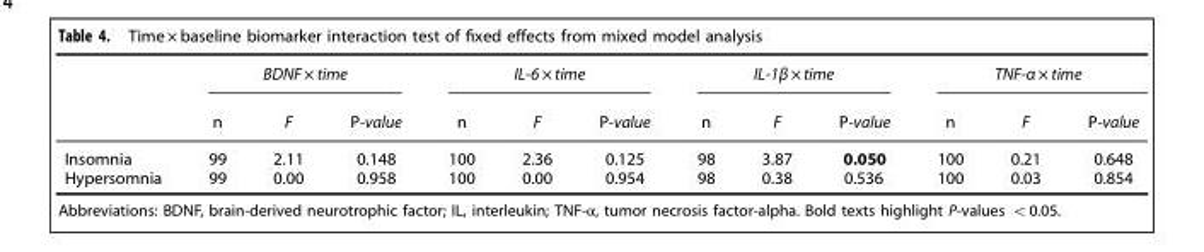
<table><thead><tr><td rowspan="2"></td><td colspan="3">BDNF × time</td><td colspan="3">IL-6 × time</td><td colspan="3">IL-1β × time</td><td colspan="3">TNF-α × time</td></tr><tr><td>n</td><td>F</td><td>P-value</td><td>n</td><td>F</td><td>P-value</td><td>n</td><td>F</td><td>P-value</td><td>n</td><td>F</td><td>P-value</td></tr></thead><tbody><tr><td>Insomnia</td><td>99</td><td>2.11</td><td>0.148</td><td>100</td><td>2.36</td><td>0.125</td><td>98</td><td>3.87</td><td>0.050</td><td>100</td><td>0.21</td><td>0.648</td></tr><tr><td>Hypersomnia</td><td>99</td><td>0.00</td><td>0.958</td><td>100</td><td>0.00</td><td>0.954</td><td>98</td><td>0.38</td><td>0.536</td><td>100</td><td>0.03</td><td>0.854</td></tr></tbody></table>